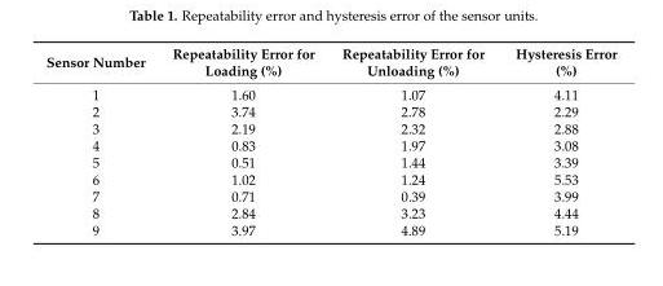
<table><thead><tr><td>Sensor Number</td><td>Repeatability Error for Loading (%)</td><td>Repeatability Error for Unloading (%)</td><td>Hysteresis Error (%)</td></tr></thead><tbody><tr><td>1</td><td>1.60</td><td>1.07</td><td>4.11</td></tr><tr><td>2</td><td>3.74</td><td>2.78</td><td>2.29</td></tr><tr><td>3</td><td>2.19</td><td>2.32</td><td>2.88</td></tr><tr><td>4</td><td>0.83</td><td>1.97</td><td>3.08</td></tr><tr><td>5</td><td>0.51</td><td>1.44</td><td>3.39</td></tr><tr><td>6</td><td>1.02</td><td>1.24</td><td>5.53</td></tr><tr><td>7</td><td>0.71</td><td>0.39</td><td>3.99</td></tr><tr><td>8</td><td>2.84</td><td>3.23</td><td>4.44</td></tr><tr><td>9</td><td>3.97</td><td>4.89</td><td>5.19</td></tr></tbody></table>